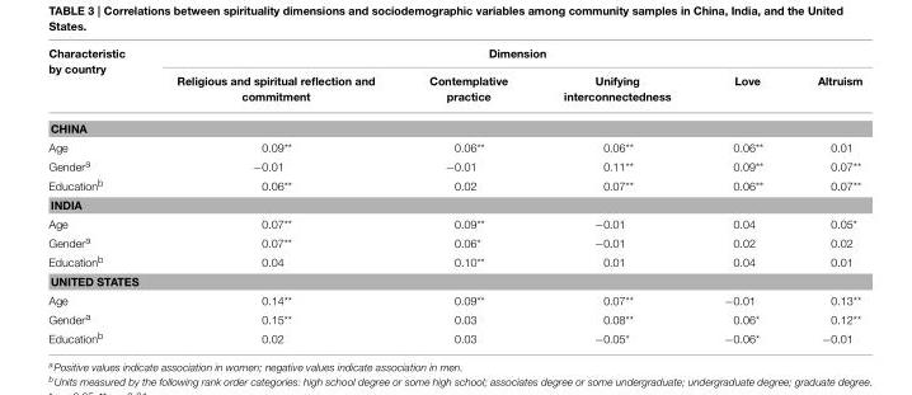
<table><thead><tr><td rowspan="2">Characteristic by country</td><td colspan="5">Dimension</td></tr><tr><td>Religious and spiritual reflection and commitment</td><td>Contemplative practice</td><td>Unifying interconnectedness</td><td>Love</td><td>Altruism</td></tr></thead><tbody><tr><td colspan="6">CHINA</td></tr><tr><td>Age</td><td>0.09**</td><td>0.06**</td><td>0.06**</td><td>0.06**</td><td>0.01</td></tr><tr><td>Gender<sup>a</sup></td><td>−0.01</td><td>−0.01</td><td>0.11**</td><td>0.09**</td><td>0.07**</td></tr><tr><td>Education<sup>b</sup></td><td>0.06**</td><td>0.02</td><td>0.07**</td><td>0.06**</td><td>0.07**</td></tr><tr><td colspan="6">INDIA</td></tr><tr><td>Age</td><td>0.07**</td><td>0.09**</td><td>−0.01</td><td>0.04</td><td>0.05*</td></tr><tr><td>Gender<sup>a</sup></td><td>0.07**</td><td>0.06*</td><td>−0.01</td><td>0.02</td><td>0.02</td></tr><tr><td>Education<sup>b</sup></td><td>0.04</td><td>0.10**</td><td>0.01</td><td>0.04</td><td>0.01</td></tr><tr><td colspan="6">UNITED STATES</td></tr><tr><td>Age</td><td>0.14**</td><td>0.09**</td><td>0.07**</td><td>−0.01</td><td>0.13**</td></tr><tr><td>Gender<sup>a</sup></td><td>0.15**</td><td>0.03</td><td>0.08**</td><td>0.06*</td><td>0.12**</td></tr><tr><td>Education<sup>b</sup></td><td>0.02</td><td>0.03</td><td>−0.05*</td><td>−0.06*</td><td>−0.01</td></tr></tbody></table>